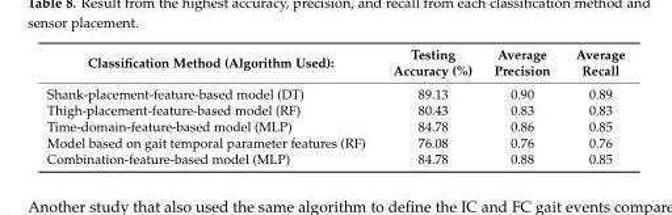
<table><thead><tr><td>Classification Method (Algorithm Used):</td><td>Testing Accuracy (%)</td><td>Average Precision</td><td>Average Recall</td></tr></thead><tbody><tr><td>Shank-placement-feature-based model (DT)</td><td>89.13</td><td>0.90</td><td>0.89</td></tr><tr><td>Thigh-placement-feature-based model (RF)</td><td>80.43</td><td>0.83</td><td>0.83</td></tr><tr><td>Time-domain-feature-based model (MLP)</td><td>84.78</td><td>0.86</td><td>0.85</td></tr><tr><td>Model based on gait temporal parameter features (RF)</td><td>76.08</td><td>0.76</td><td>0.76</td></tr><tr><td>Combination-feature-based model (MLP)</td><td>84.78</td><td>0.88</td><td>0.85</td></tr></tbody></table>